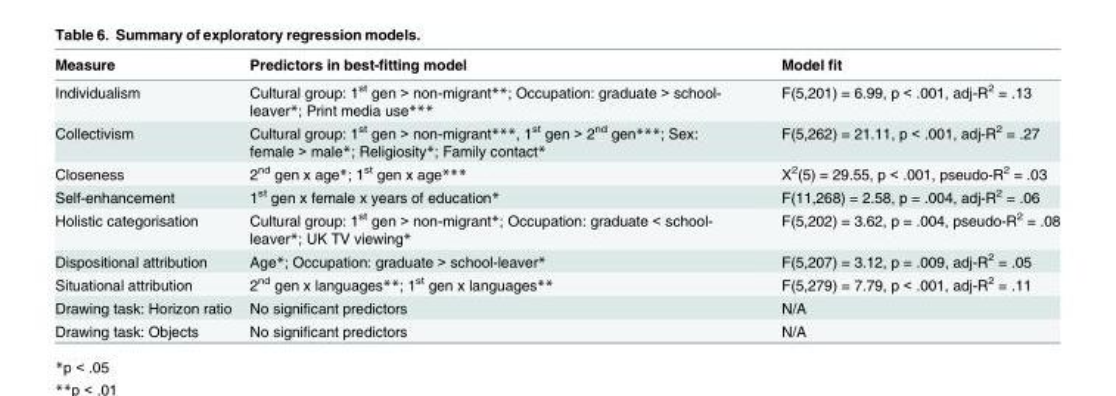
<table><thead><tr><td>Measure</td><td>Predictors in best-fitting model</td><td>Model fit</td></tr></thead><tbody><tr><td>Individualism</td><td>Cultural group: 1<sup>st</sup> gen &gt; non-migrant**; Occupation: graduate &gt; school- leaver*; Print media use***</td><td>F(5,201) = 6.99, p &lt; .001, adj-R<sup>2</sup> = .13</td></tr><tr><td>Collectivism</td><td>Cultural group: 1<sup>st</sup> gen &gt; non-migrant***, 1<sup>st</sup> gen &gt; 2<sup>nd</sup> gen***; Sex: female &gt; male*; Religiosity*; Family contact*</td><td>F(5,262) = 21.11, p &lt; .001, adj-R<sup>2</sup> = .27</td></tr><tr><td>Closeness</td><td>2<sup>nd</sup> gen x age*; 1<sup>st</sup> gen x age***</td><td>Χ<sup>2</sup>(5) = 29.55, p &lt; .001, pseudo-R<sup>2</sup> = .03</td></tr><tr><td>Self-enhancement</td><td>1<sup>st</sup> gen x female x years of education*</td><td>F(11,268) = 2.58, p = .004, adj-R<sup>2</sup> = .06</td></tr><tr><td>Holistic categorisation</td><td>Cultural group: 1<sup>st</sup> gen &gt; non-migrant*; Occupation: graduate &lt; school- leaver*; UK TV viewing*</td><td>F(5,202) = 3.62, p = .004, pseudo-R<sup>2</sup> = .08</td></tr><tr><td>Dispositional attribution</td><td>Age*; Occupation: graduate &gt; school-leaver*</td><td>F(5,207) = 3.12, p = .009, adj-R<sup>2</sup> = .05</td></tr><tr><td>Situational attribution</td><td>2<sup>nd</sup> gen x languages**; 1<sup>st</sup> gen x languages**</td><td>F(5,279) = 7.79, p &lt; .001, adj-R<sup>2</sup> = .11</td></tr><tr><td>Drawing task: Horizon ratio</td><td>No significant predictors</td><td>N/A</td></tr><tr><td>Drawing task: Objects</td><td>No significant predictors</td><td>N/A</td></tr></tbody></table>